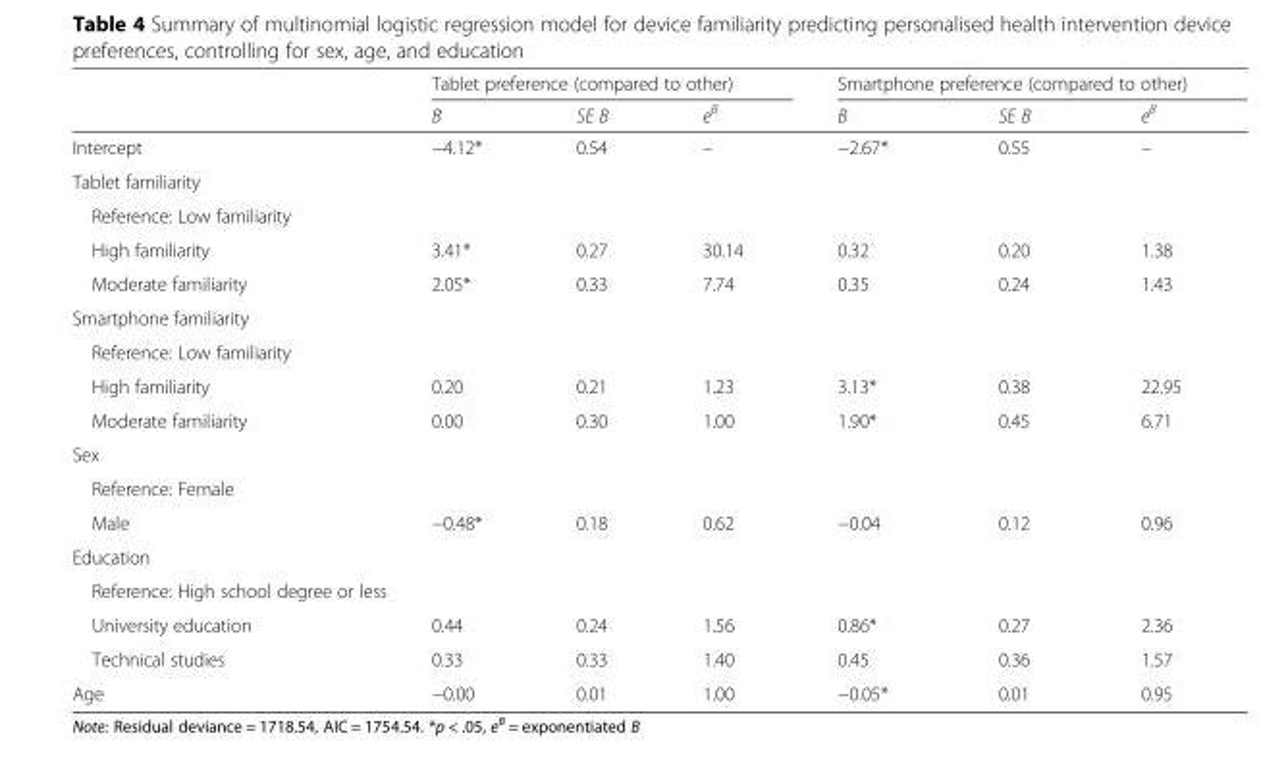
<table><thead><tr><td rowspan="2"></td><td colspan="3">Tablet preference (compared to other)</td><td colspan="3">Smartphone preference (compared to other)</td></tr><tr><td>B</td><td>SE B</td><td>e<sup>B</sup></td><td>B</td><td>SE B</td><td>e<sup>B</sup></td></tr></thead><tbody><tr><td>Intercept</td><td>−4.12*</td><td>0.54</td><td>–</td><td>−2.67*</td><td>0.55</td><td>–</td></tr><tr><td colspan="7">Tablet familiarity</td></tr><tr><td colspan="7">Reference: Low familiarity</td></tr><tr><td>High familiarity</td><td>3.41*</td><td>0.27</td><td>30.14</td><td>0.32</td><td>0.20</td><td>1.38</td></tr><tr><td>Moderate familiarity</td><td>2.05*</td><td>0.33</td><td>7.74</td><td>0.35</td><td>0.24</td><td>1.43</td></tr><tr><td colspan="7">Smartphone familiarity</td></tr><tr><td colspan="7">Reference: Low familiarity</td></tr><tr><td>High familiarity</td><td>0.20</td><td>0.21</td><td>1.23</td><td>3.13*</td><td>0.38</td><td>22.95</td></tr><tr><td>Moderate familiarity</td><td>0.00</td><td>0.30</td><td>1.00</td><td>1.90*</td><td>0.45</td><td>6.71</td></tr><tr><td colspan="7">Sex</td></tr><tr><td colspan="7">Reference: Female</td></tr><tr><td>Male</td><td>−0.48*</td><td>0.18</td><td>0.62</td><td>−0.04</td><td>0.12</td><td>0.96</td></tr><tr><td colspan="7">Education</td></tr><tr><td colspan="7">Reference: High school degree or less</td></tr><tr><td>University education</td><td>0.44</td><td>0.24</td><td>1.56</td><td>0.86*</td><td>0.27</td><td>2.36</td></tr><tr><td>Technical studies</td><td>0.33</td><td>0.33</td><td>1.40</td><td>0.45</td><td>0.36</td><td>1.57</td></tr><tr><td>Age</td><td>−0.00</td><td>0.01</td><td>1.00</td><td>−0.05*</td><td>0.01</td><td>0.95</td></tr></tbody></table>